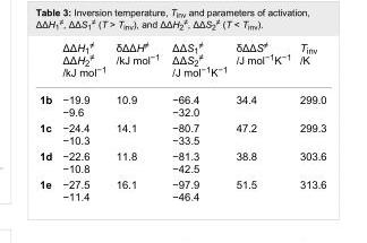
<table><thead><tr><td></td><td>ΔΔH<sub>1</sub><sup>≠</sup> ΔΔH<sub>2</sub><sup>≠</sup> /kJ mol<sup>−1</sup></td><td>δΔΔH<sup>≠</sup> /kJ mol<sup>−1</sup></td><td>ΔΔS<sub>1</sub><sup>≠</sup> ΔΔS<sub>2</sub><sup>≠</sup> /J mol<sup>−1</sup>K<sup>−1</sup></td><td>δΔΔS<sup>≠</sup> /J mol<sup>−1</sup>K<sup>−1</sup></td><td>T<sub>inv</sub> /K</td></tr></thead><tbody><tr><td>1b</td><td>−19.9 −9.6</td><td>10.9</td><td>−66.4 −32.0</td><td>34.4</td><td>299.0</td></tr><tr><td>1c</td><td>−24.4 −10.3</td><td>14.1</td><td>−80.7 −33.5</td><td>47.2</td><td>299.3</td></tr><tr><td>1d</td><td>−22.6 −10.8</td><td>11.8</td><td>−81.3 −42.5</td><td>38.8</td><td>303.6</td></tr><tr><td>1e</td><td>−27.5 −11.4</td><td>16.1</td><td>−97.9 −46.4</td><td>51.5</td><td>313.6</td></tr></tbody></table>